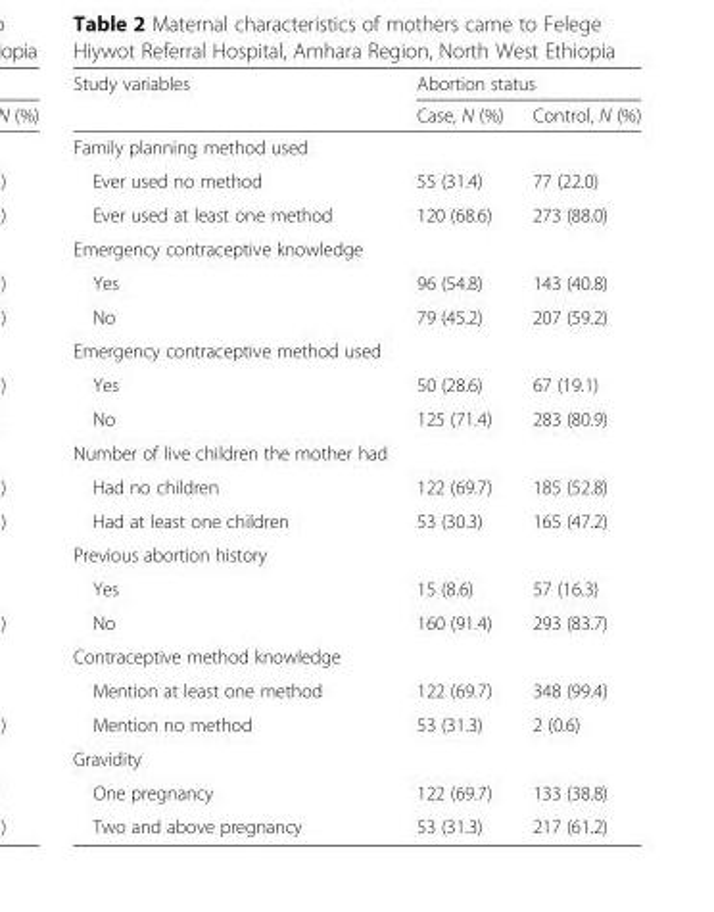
<table><thead><tr><td rowspan="2">Study variables</td><td colspan="2">Abortion status</td></tr><tr><td>Case, N (%)</td><td>Control, N (%)</td></tr></thead><tbody><tr><td colspan="3">Family planning method used</td></tr><tr><td>Ever used no method</td><td>55 (31.4)</td><td>77 (22.0)</td></tr><tr><td>Ever used at least one method</td><td>120 (68.6)</td><td>273 (88.0)</td></tr><tr><td colspan="3">Emergency contraceptive knowledge</td></tr><tr><td>Yes</td><td>96 (54.8)</td><td>143 (40.8)</td></tr><tr><td>No</td><td>79 (45.2)</td><td>207 (59.2)</td></tr><tr><td colspan="3">Emergency contraceptive method used</td></tr><tr><td>Yes</td><td>50 (28.6)</td><td>67 (19.1)</td></tr><tr><td>No</td><td>125 (71.4)</td><td>283 (80.9)</td></tr><tr><td colspan="3">Number of live children the mother had</td></tr><tr><td>Had no children</td><td>122 (69.7)</td><td>185 (52.8)</td></tr><tr><td>Had at least one children</td><td>53 (30.3)</td><td>165 (47.2)</td></tr><tr><td colspan="3">Previous abortion history</td></tr><tr><td>Yes</td><td>15 (8.6)</td><td>57 (16.3)</td></tr><tr><td>No</td><td>160 (91.4)</td><td>293 (83.7)</td></tr><tr><td colspan="3">Contraceptive method knowledge</td></tr><tr><td>Mention at least one method</td><td>122 (69.7)</td><td>348 (99.4)</td></tr><tr><td>Mention no method</td><td>53 (31.3)</td><td>2 (0.6)</td></tr><tr><td colspan="3">Gravidity</td></tr><tr><td>One pregnancy</td><td>122 (69.7)</td><td>133 (38.8)</td></tr><tr><td>Two and above pregnancy</td><td>53 (31.3)</td><td>217 (61.2)</td></tr></tbody></table>